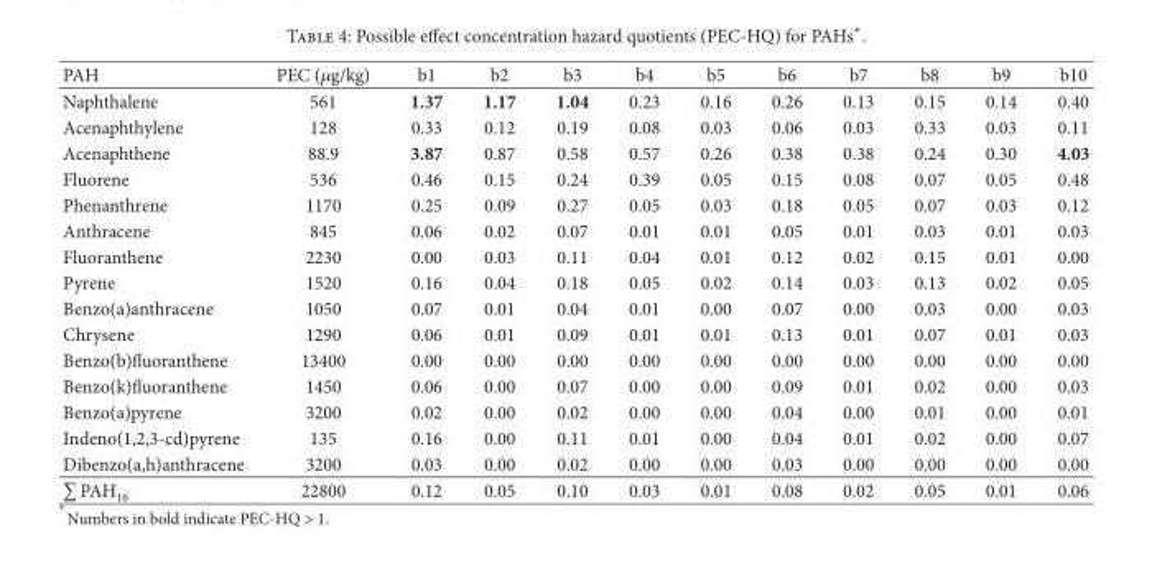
<table><thead><tr><td>PAH</td><td>PEC (𝜇𝜇g/kg)</td><td>b1</td><td>b2</td><td>b3</td><td>b4</td><td>b5</td><td>b6</td><td>b7</td><td>b8</td><td>b9</td><td>b10</td></tr></thead><tbody><tr><td>Naphthalene</td><td>561</td><td>1.37</td><td>1.17</td><td>1.04</td><td>0.23</td><td>0.16</td><td>0.26</td><td>0.13</td><td>0.15</td><td>0.14</td><td>0.40</td></tr><tr><td>Acenaphthylene</td><td>128</td><td>0.33</td><td>0.12</td><td>0.19</td><td>0.08</td><td>0.03</td><td>0.06</td><td>0.03</td><td>0.33</td><td>0.03</td><td>0.11</td></tr><tr><td>Acenaphthene</td><td>88.9</td><td>3.87</td><td>0.87</td><td>0.58</td><td>0.57</td><td>0.26</td><td>0.38</td><td>0.38</td><td>0.24</td><td>0.30</td><td>4.03</td></tr><tr><td>Fluorene</td><td>536</td><td>0.46</td><td>0.15</td><td>0.24</td><td>0.39</td><td>0.05</td><td>0.15</td><td>0.08</td><td>0.07</td><td>0.05</td><td>0.48</td></tr><tr><td>Phenanthrene</td><td>1170</td><td>0.25</td><td>0.09</td><td>0.27</td><td>0.05</td><td>0.03</td><td>0.18</td><td>0.05</td><td>0.07</td><td>0.03</td><td>0.12</td></tr><tr><td>Anthracene</td><td>845</td><td>0.06</td><td>0.02</td><td>0.07</td><td>0.01</td><td>0.01</td><td>0.05</td><td>0.01</td><td>0.03</td><td>0.01</td><td>0.03</td></tr><tr><td>Fluoranthene</td><td>2230</td><td>0.00</td><td>0.03</td><td>0.11</td><td>0.04</td><td>0.01</td><td>0.12</td><td>0.02</td><td>0.15</td><td>0.01</td><td>0.00</td></tr><tr><td>Pyrene</td><td>1520</td><td>0.16</td><td>0.04</td><td>0.18</td><td>0.05</td><td>0.02</td><td>0.14</td><td>0.03</td><td>0.13</td><td>0.02</td><td>0.05</td></tr><tr><td>Benzo(a)anthracene</td><td>1050</td><td>0.07</td><td>0.01</td><td>0.04</td><td>0.01</td><td>0.00</td><td>0.07</td><td>0.00</td><td>0.03</td><td>0.00</td><td>0.03</td></tr><tr><td>Chrysene</td><td>1290</td><td>0.06</td><td>0.01</td><td>0.09</td><td>0.01</td><td>0.01</td><td>0.13</td><td>0.01</td><td>0.07</td><td>0.01</td><td>0.03</td></tr><tr><td>Benzo(b)�uoranthene</td><td>13400</td><td>0.00</td><td>0.00</td><td>0.00</td><td>0.00</td><td>0.00</td><td>0.00</td><td>0.00</td><td>0.00</td><td>0.00</td><td>0.00</td></tr><tr><td>Benzo(k)�uoranthene</td><td>1450</td><td>0.06</td><td>0.00</td><td>0.07</td><td>0.00</td><td>0.00</td><td>0.09</td><td>0.01</td><td>0.02</td><td>0.00</td><td>0.03</td></tr><tr><td>Benzo(a)pyrene</td><td>3200</td><td>0.02</td><td>0.00</td><td>0.02</td><td>0.00</td><td>0.00</td><td>0.04</td><td>0.00</td><td>0.01</td><td>0.00</td><td>0.01</td></tr><tr><td>Indeno(1,2,3-cd)pyrene</td><td>135</td><td>0.16</td><td>0.00</td><td>0.11</td><td>0.01</td><td>0.00</td><td>0.04</td><td>0.01</td><td>0.02</td><td>0.00</td><td>0.07</td></tr><tr><td>Dibenzo(a,h)anthracene</td><td>3200</td><td>0.03</td><td>0.00</td><td>0.02</td><td>0.00</td><td>0.00</td><td>0.03</td><td>0.00</td><td>0.00</td><td>0.00</td><td>0.00</td></tr><tr><td>∑ PAH<sub>16</sub></td><td>22800</td><td>0.12</td><td>0.05</td><td>0.10</td><td>0.03</td><td>0.01</td><td>0.08</td><td>0.02</td><td>0.05</td><td>0.01</td><td>0.06</td></tr></tbody></table>